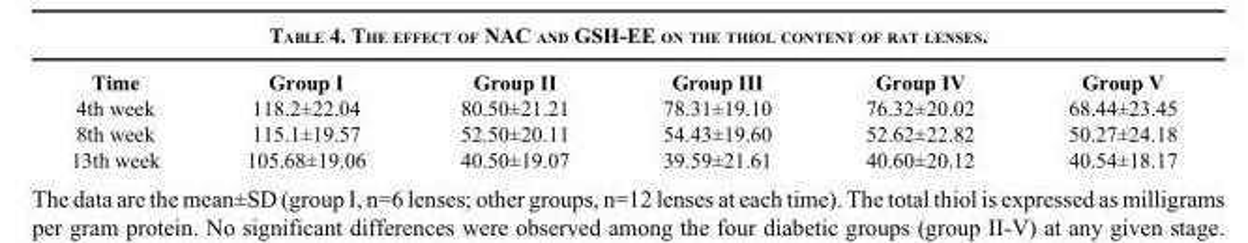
<table><tbody><tr><td>Time</td><td>Group I</td><td>Group II</td><td>Group III</td><td>Group IV</td><td>Group V</td></tr><tr><td>4th week</td><td>118.2±22.04</td><td>80.50±21.21</td><td>78.31±19.10</td><td>76.32±20.02</td><td>68.44±23.45</td></tr><tr><td>8th week</td><td>115.1±19.57</td><td>52.50±20.11</td><td>54.43±19.60</td><td>52.62±22.82</td><td>50.27±24.18</td></tr><tr><td>13th week</td><td>105.68±19.06</td><td>40.50±19.07</td><td>39.59±21.61</td><td>40.60±20.12</td><td>40.54±18.17</td></tr></tbody></table>